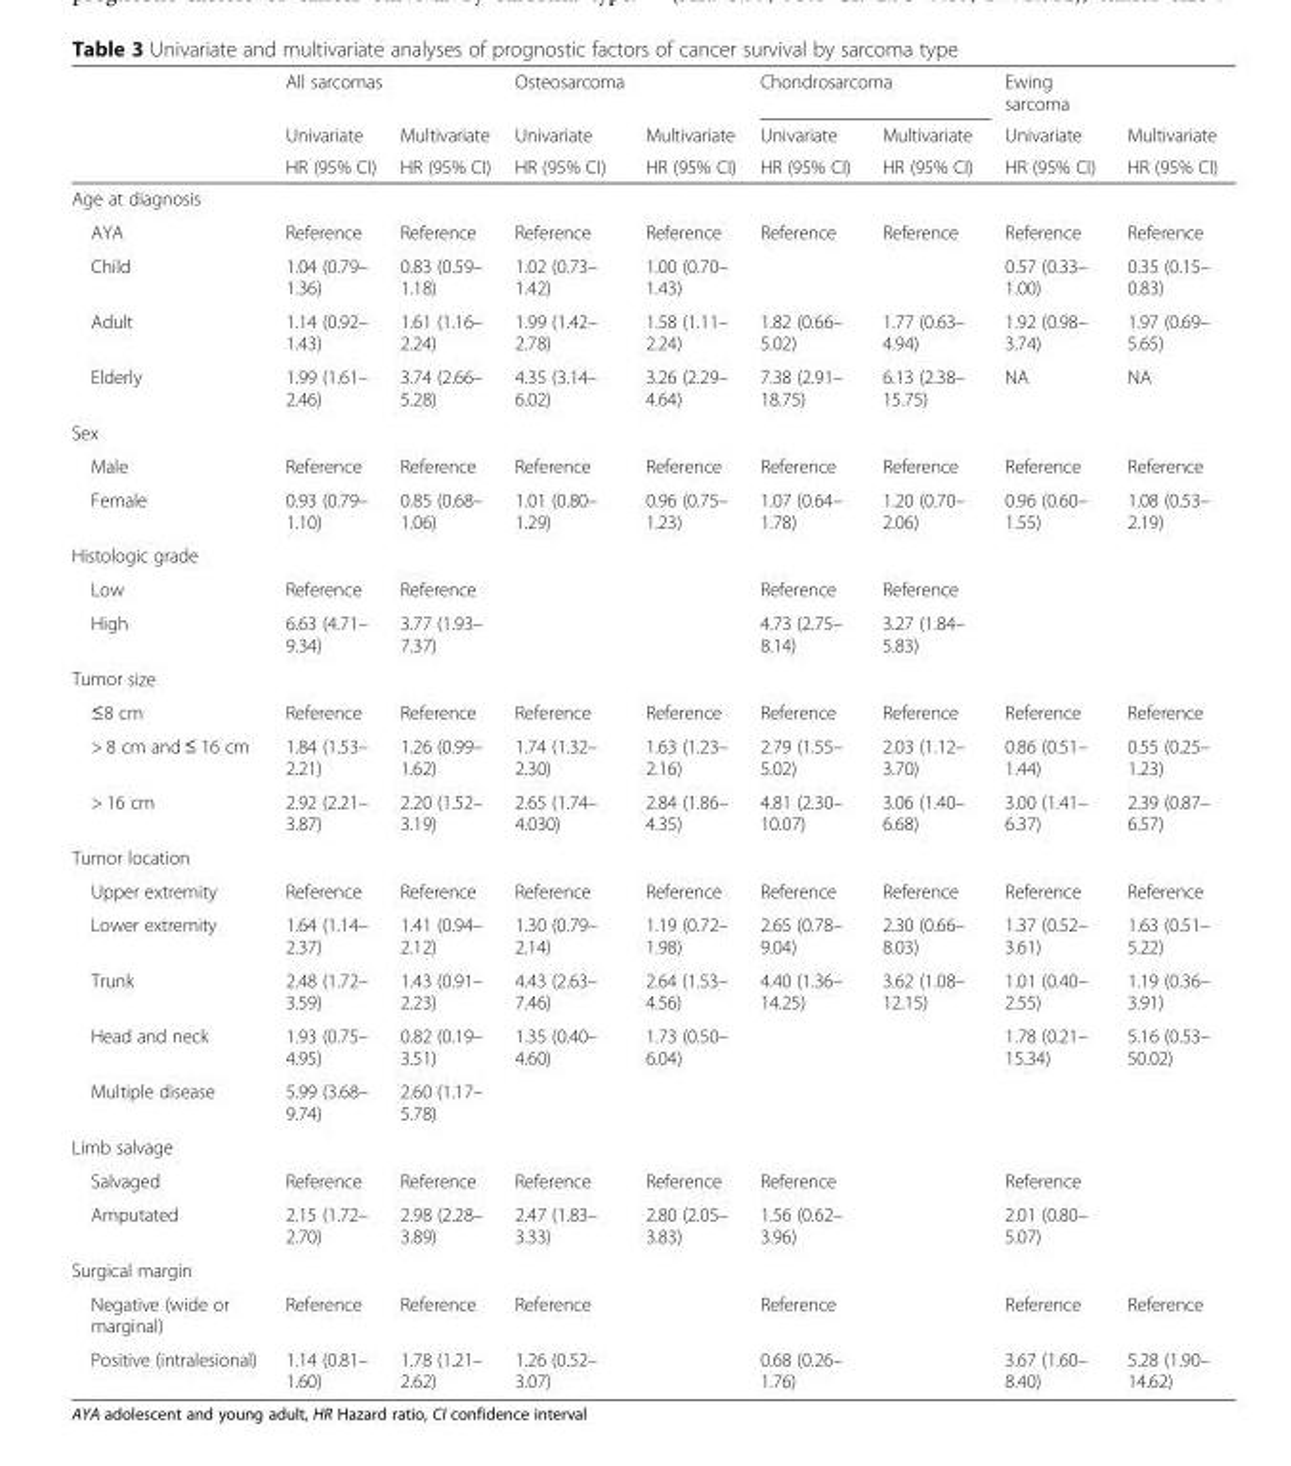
<table><thead><tr><td rowspan="3"></td><td rowspan="3">All sarcomas Univariate HR (95% CI)</td><td rowspan="3">Multivariate HR (95% CI)</td><td rowspan="3">Osteosarcoma Univariate HR (95% CI)</td><td rowspan="3">Multivariate HR (95% CI)</td><td colspan="2">Chondrosarcoma</td><td rowspan="3">Ewing sarcoma Univariate HR (95% CI)</td><td rowspan="3">Multivariate HR (95% CI)</td></tr><tr><td rowspan="2">Univariate HR (95% CI)</td><td rowspan="2">Multivariate HR (95% CI)</td></tr><tr></tr></thead><tbody><tr><td colspan="9">Age at diagnosis</td></tr><tr><td>AYA</td><td>Reference</td><td>Reference</td><td>Reference</td><td>Reference</td><td>Reference</td><td>Reference</td><td>Reference</td><td>Reference</td></tr><tr><td>Child</td><td>1.04 (0.79– 1.36)</td><td>0.83 (0.59– 1.18)</td><td>1.02 (0.73– 1.42)</td><td>1.00 (0.70– 1.43)</td><td></td><td></td><td>0.57 (0.33– 1.00)</td><td>0.35 (0.15– 0.83)</td></tr><tr><td>Adult</td><td>1.14 (0.92– 1.43)</td><td>1.61 (1.16– 2.24)</td><td>1.99 (1.42– 2.78)</td><td>1.58 (1.11– 2.24)</td><td>1.82 (0.66– 5.02)</td><td>1.77 (0.63– 4.94)</td><td>1.92 (0.98– 3.74)</td><td>1.97 (0.69– 5.65)</td></tr><tr><td>Elderly</td><td>1.99 (1.61– 2.46)</td><td>3.74 (2.66– 5.28)</td><td>4.35 (3.14– 6.02)</td><td>3.26 (2.29– 4.64)</td><td>7.38 (2.91– 18.75)</td><td>6.13 (2.38– 15.75)</td><td>NA</td><td>NA</td></tr><tr><td colspan="9">Sex</td></tr><tr><td>Male</td><td>Reference</td><td>Reference</td><td>Reference</td><td>Reference</td><td>Reference</td><td>Reference</td><td>Reference</td><td>Reference</td></tr><tr><td>Female</td><td>0.93 (0.79– 1.10)</td><td>0.85 (0.68– 1.06)</td><td>1.01 (0.80– 1.29)</td><td>0.96 (0.75– 1.23)</td><td>1.07 (0.64– 1.78)</td><td>1.20 (0.70– 2.06)</td><td>0.96 (0.60– 1.55)</td><td>1.08 (0.53– 2.19)</td></tr><tr><td colspan="9">Histologic grade</td></tr><tr><td>Low</td><td>Reference</td><td>Reference</td><td></td><td></td><td>Reference</td><td>Reference</td><td></td><td></td></tr><tr><td>High</td><td>6.63 (4.71– 9.34)</td><td>3.77 (1.93– 7.37)</td><td></td><td></td><td>4.73 (2.75– 8.14)</td><td>3.27 (1.84– 5.83)</td><td></td><td></td></tr><tr><td colspan="9">Tumor size</td></tr><tr><td>≤8 cm</td><td>Reference</td><td>Reference</td><td>Reference</td><td>Reference</td><td>Reference</td><td>Reference</td><td>Reference</td><td>Reference</td></tr><tr><td>&gt; 8 cm and ≤ 16 cm</td><td>1.84 (1.53– 2.21)</td><td>1.26 (0.99– 1.62)</td><td>1.74 (1.32– 2.30)</td><td>1.63 (1.23– 2.16)</td><td>2.79 (1.55– 5.02)</td><td>2.03 (1.12– 3.70)</td><td>0.86 (0.51– 1.44)</td><td>0.55 (0.25– 1.23)</td></tr><tr><td>&gt; 16 cm</td><td>2.92 (2.21– 3.87)</td><td>2.20 (1.52– 3.19)</td><td>2.65 (1.74– 4.030)</td><td>2.84 (1.86– 4.35)</td><td>4.81 (2.30– 10.07)</td><td>3.06 (1.40– 6.68)</td><td>3.00 (1.41– 6.37)</td><td>2.39 (0.87– 6.57)</td></tr><tr><td colspan="9">Tumor location</td></tr><tr><td>Upper extremity</td><td>Reference</td><td>Reference</td><td>Reference</td><td>Reference</td><td>Reference</td><td>Reference</td><td>Reference</td><td>Reference</td></tr><tr><td>Lower extremity</td><td>1.64 (1.14– 2.37)</td><td>1.41 (0.94– 2.12)</td><td>1.30 (0.79– 2.14)</td><td>1.19 (0.72– 1.98)</td><td>2.65 (0.78– 9.04)</td><td>2.30 (0.66– 8.03)</td><td>1.37 (0.52– 3.61)</td><td>1.63 (0.51– 5.22)</td></tr><tr><td>Trunk</td><td>2.48 (1.72– 3.59)</td><td>1.43 (0.91– 2.23)</td><td>4.43 (2.63– 7.46)</td><td>2.64 (1.53– 4.56)</td><td>4.40 (1.36– 14.25)</td><td>3.62 (1.08– 12.15)</td><td>1.01 (0.40– 2.55)</td><td>1.19 (0.36– 3.91)</td></tr><tr><td>Head and neck</td><td>1.93 (0.75– 4.95)</td><td>0.82 (0.19– 3.51)</td><td>1.35 (0.40– 4.60)</td><td>1.73 (0.50– 6.04)</td><td></td><td></td><td>1.78 (0.21– 15.34)</td><td>5.16 (0.53– 50.02)</td></tr><tr><td>Multiple disease</td><td>5.99 (3.68– 9.74)</td><td>2.60 (1.17– 5.78)</td><td></td><td></td><td></td><td></td><td></td><td></td></tr><tr><td colspan="9">Limb salvage</td></tr><tr><td>Salvaged</td><td>Reference</td><td>Reference</td><td>Reference</td><td>Reference</td><td>Reference</td><td></td><td>Reference</td><td></td></tr><tr><td>Amputated</td><td>2.15 (1.72– 2.70)</td><td>2.98 (2.28– 3.89)</td><td>2.47 (1.83– 3.33)</td><td>2.80 (2.05– 3.83)</td><td>1.56 (0.62– 3.96)</td><td></td><td>2.01 (0.80– 5.07)</td><td></td></tr><tr><td colspan="9">Surgical margin</td></tr><tr><td>Negative (wide or marginal)</td><td>Reference</td><td>Reference</td><td>Reference</td><td></td><td>Reference</td><td></td><td>Reference</td><td>Reference</td></tr><tr><td>Positive (intralesional)</td><td>1.14 (0.81– 1.60)</td><td>1.78 (1.21– 2.62)</td><td>1.26 (0.52– 3.07)</td><td></td><td>0.68 (0.26– 1.76)</td><td></td><td>3.67 (1.60– 8.40)</td><td>5.28 (1.90– 14.62)</td></tr></tbody></table>